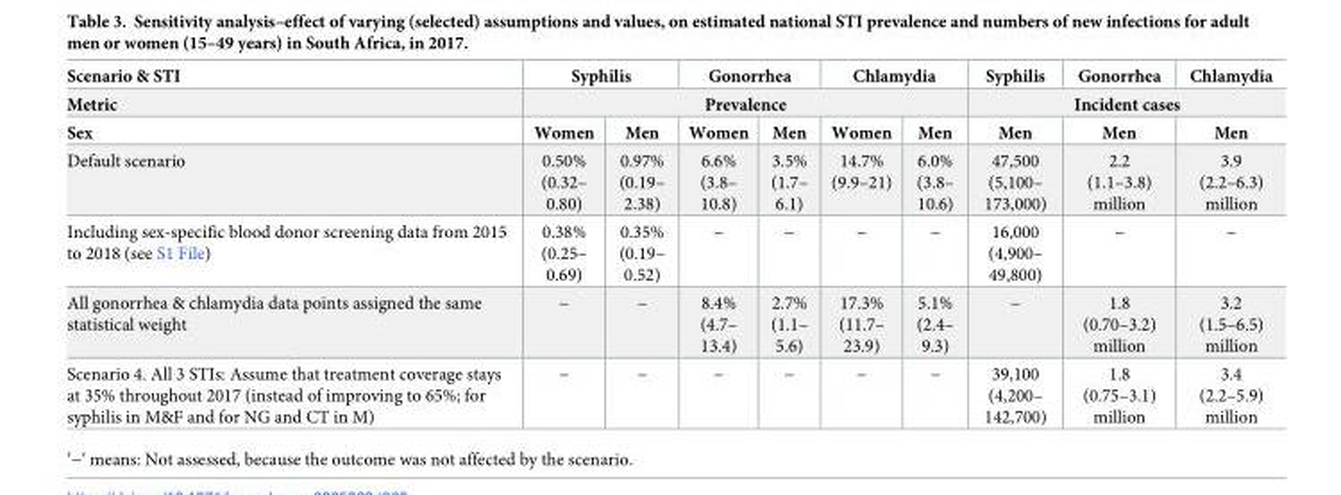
<table><thead><tr><td rowspan="3">Scenario &amp; STI Metric Sex</td><td colspan="2">Syphilis</td><td colspan="2">Gonorrhea</td><td colspan="2">Chlamydia</td><td>Syphilis</td><td>Gonorrhea</td><td>Chlamydia</td></tr><tr><td colspan="6">Prevalence</td><td colspan="3">Incident cases</td></tr><tr><td>Women</td><td>Men</td><td>Women</td><td>Men</td><td>Women</td><td>Men</td><td>Men</td><td>Men</td><td>Men</td></tr></thead><tbody><tr><td>Default scenario</td><td>0.50% (0.32– 0.80)</td><td>0.97% (0.19– 2.38)</td><td>6.6% (3.8– 10.8)</td><td>3.5% (1.7– 6.1)</td><td>14.7% (9.9–21)</td><td>6.0% (3.8– 10.6)</td><td>47,500 (5,100– 173,000)</td><td>2.2 (1.1–3.8) million</td><td>3.9 (2.2–6.3) million</td></tr><tr><td>Including sex-specific blood donor screening data from 2015 to 2018 (see S1 File)</td><td>0.38% (0.25– 0.69)</td><td>0.35% (0.19– 0.52)</td><td>−</td><td>−</td><td>−</td><td>−</td><td>16,000 (4,900– 49,800)</td><td>−</td><td>−</td></tr><tr><td>All gonorrhea &amp; chlamydia data points assigned the same statistical weight</td><td>−</td><td>−</td><td>8.4% (4.7– 13.4)</td><td>2.7% (1.1– 5.6)</td><td>17.3% (11.7– 23.9)</td><td>5.1% (2.4– 9.3)</td><td>−</td><td>1.8 (0.70–3.2) million</td><td>3.2 (1.5–6.5) million</td></tr><tr><td>Scenario 4. All 3 STIs: Assume that treatment coverage stays at 35% throughout 2017 (instead of improving to 65%; for syphilis in M&amp;F and for NG and CT in M)</td><td>−</td><td>−</td><td>−</td><td>−</td><td>−</td><td>−</td><td>39,100 (4,200– 142,700)</td><td>1.8 (0.75–3.1) million</td><td>3.4 (2.2–5.9) million</td></tr></tbody></table>